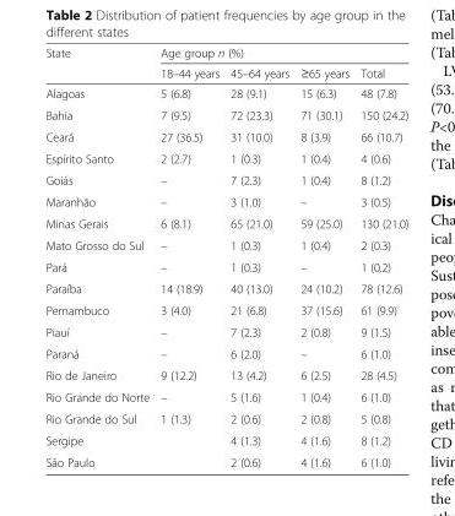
<table><thead><tr><td rowspan="2">State</td><td colspan="4">Age group n (%)</td></tr><tr><td>18–44 years</td><td>45–64 years</td><td>≥65 years</td><td>Total</td></tr></thead><tbody><tr><td>Alagoas</td><td>5 (6.8)</td><td>28 (9.1)</td><td>15 (6.3)</td><td>48 (7.8)</td></tr><tr><td>Bahia</td><td>7 (9.5)</td><td>72 (23.3)</td><td>71 (30.1)</td><td>150 (24.2)</td></tr><tr><td>Ceará</td><td>27 (36.5)</td><td>31 (10.0)</td><td>8 (3.9)</td><td>66 (10.7)</td></tr><tr><td>Espírito Santo</td><td>2 (2.7)</td><td>1 (0.3)</td><td>1 (0.4)</td><td>4 (0.6)</td></tr><tr><td>Goiás</td><td>–</td><td>7 (2.3)</td><td>1 (0.4)</td><td>8 (1.2)</td></tr><tr><td>Maranhão</td><td>–</td><td>3 (1.0)</td><td>–</td><td>3 (0.5)</td></tr><tr><td>Minas Gerais</td><td>6 (8.1)</td><td>65 (21.0)</td><td>59 (25.0)</td><td>130 (21.0)</td></tr><tr><td>Mato Grosso do Sul</td><td>–</td><td>1 (0.3)</td><td>1 (0.4)</td><td>2 (0.3)</td></tr><tr><td>Pará</td><td>–</td><td>1 (0.3)</td><td>–</td><td>1 (0.2)</td></tr><tr><td>Paraíba</td><td>14 (18.9)</td><td>40 (13.0)</td><td>24 (10.2)</td><td>78 (12.6)</td></tr><tr><td>Pernambuco</td><td>3 (4.0)</td><td>21 (6.8)</td><td>37 (15.6)</td><td>61 (9.9)</td></tr><tr><td>Piauí</td><td>–</td><td>7 (2.3)</td><td>2 (0.8)</td><td>9 (1.5)</td></tr><tr><td>Paraná</td><td>–</td><td>6 (2.0)</td><td>–</td><td>6 (1.0)</td></tr><tr><td>Rio de Janeiro</td><td>9 (12.2)</td><td>13 (4.2)</td><td>6 (2.5)</td><td>28 (4.5)</td></tr><tr><td>Rio Grande do Norte</td><td>–</td><td>5 (1.6)</td><td>1 (0.4)</td><td>6 (1.0)</td></tr><tr><td>Rio Grande do Sul</td><td>1 (1.3)</td><td>2 (0.6)</td><td>2 (0.8)</td><td>5 (0.8)</td></tr><tr><td>Sergipe</td><td rowspan="2"></td><td>4 (1.3)</td><td>4 (1.6)</td><td>8 (1.2)</td></tr><tr><td>São Paulo</td><td>2 (0.6)</td><td>4 (1.6)</td><td>6 (1.0)</td></tr></tbody></table>